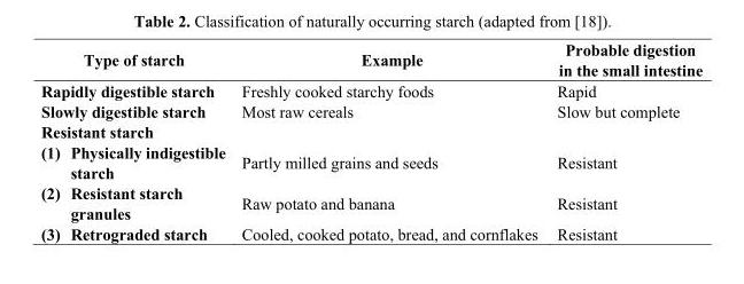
<table><thead><tr><td>Type of starch</td><td>Example</td><td>Probable digestion in the small intestine</td></tr></thead><tbody><tr><td>Rapidly digestible starch</td><td>Freshly cooked starchy foods</td><td>Rapid</td></tr><tr><td>Slowly digestible starch</td><td>Most raw cereals</td><td>Slow but complete</td></tr><tr><td colspan="3">Resistant starch</td></tr><tr><td>(1) Physically indigestible starch</td><td>Partly milled grains and seeds</td><td>Resistant</td></tr><tr><td>(2) Resistant starch granules</td><td>Raw potato and banana</td><td>Resistant</td></tr><tr><td>(3) Retrograded starch</td><td>Cooled, cooked potato, bread, and cornflakes</td><td>Resistant</td></tr></tbody></table>